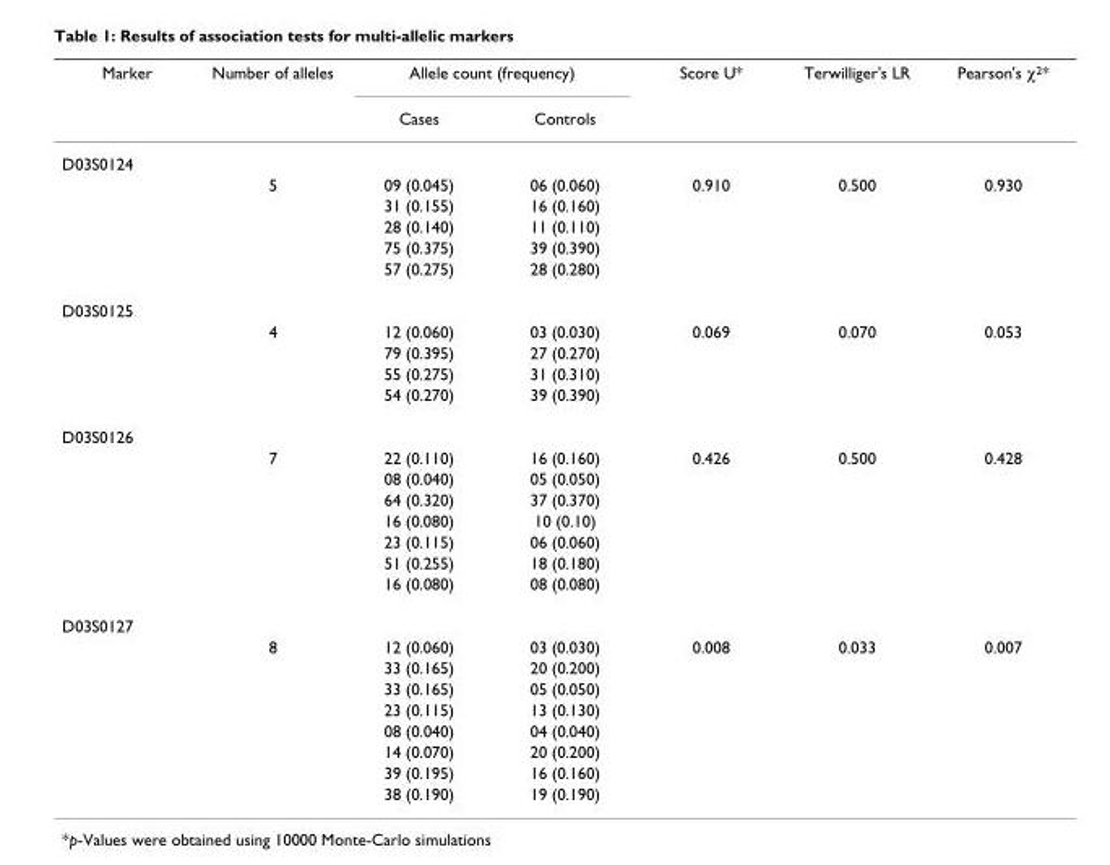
<table><thead><tr><td rowspan="2">Marker</td><td rowspan="2">Number of alleles</td><td colspan="2">Allele count (frequency)</td><td rowspan="2">Score U*</td><td rowspan="2">Terwilliger&#x27;s LR</td><td rowspan="2">Pearson&#x27;s χ2*</td></tr><tr><td>Cases</td><td>Controls</td></tr></thead><tbody><tr><td colspan="7">D03S0124</td></tr><tr><td></td><td>5</td><td>09 (0.045)</td><td>06 (0.060)</td><td>0.910</td><td>0.500</td><td>0.930</td></tr><tr><td></td><td></td><td>31 (0.155)</td><td>16 (0.160)</td><td></td><td></td><td></td></tr><tr><td></td><td></td><td>28 (0.140)</td><td>11 (0.110)</td><td></td><td></td><td></td></tr><tr><td></td><td></td><td>75 (0.375)</td><td>39 (0.390)</td><td></td><td></td><td></td></tr><tr><td></td><td></td><td>57 (0.275)</td><td>28 (0.280)</td><td></td><td></td><td></td></tr><tr><td colspan="7">D03S0125</td></tr><tr><td></td><td>4</td><td>12 (0.060)</td><td>03 (0.030)</td><td>0.069</td><td>0.070</td><td>0.053</td></tr><tr><td></td><td></td><td>79 (0.395)</td><td>27 (0.270)</td><td></td><td></td><td></td></tr><tr><td></td><td></td><td>55 (0.275)</td><td>31 (0.310)</td><td></td><td></td><td></td></tr><tr><td></td><td></td><td>54 (0.270)</td><td>39 (0.390)</td><td></td><td></td><td></td></tr><tr><td colspan="7">D03S0126</td></tr><tr><td></td><td>7</td><td>22 (0.110)</td><td>16 (0.160)</td><td>0.426</td><td>0.500</td><td>0.428</td></tr><tr><td></td><td></td><td>08 (0.040)</td><td>05 (0.050)</td><td></td><td></td><td></td></tr><tr><td></td><td></td><td>64 (0.320)</td><td>37 (0.370)</td><td></td><td></td><td></td></tr><tr><td></td><td></td><td>16 (0.080)</td><td>10 (0.10)</td><td></td><td></td><td></td></tr><tr><td></td><td></td><td>23 (0.115)</td><td>06 (0.060)</td><td></td><td></td><td></td></tr><tr><td></td><td></td><td>51 (0.255)</td><td>18 (0.180)</td><td></td><td></td><td></td></tr><tr><td></td><td></td><td>16 (0.080)</td><td>08 (0.080)</td><td></td><td></td><td></td></tr><tr><td colspan="7">D03S0127</td></tr><tr><td></td><td>8</td><td>12 (0.060)</td><td>03 (0.030)</td><td>0.008</td><td>0.033</td><td>0.007</td></tr><tr><td></td><td></td><td>33 (0.165)</td><td>20 (0.200)</td><td></td><td></td><td></td></tr><tr><td></td><td></td><td>33 (0.165)</td><td>05 (0.050)</td><td></td><td></td><td></td></tr><tr><td></td><td></td><td>23 (0.115)</td><td>13 (0.130)</td><td></td><td></td><td></td></tr><tr><td></td><td></td><td>08 (0.040)</td><td>04 (0.040)</td><td></td><td></td><td></td></tr><tr><td></td><td></td><td>14 (0.070)</td><td>20 (0.200)</td><td></td><td></td><td></td></tr><tr><td></td><td></td><td>39 (0.195)</td><td>16 (0.160)</td><td></td><td></td><td></td></tr><tr><td></td><td></td><td>38 (0.190)</td><td>19 (0.190)</td><td></td><td></td><td></td></tr></tbody></table>